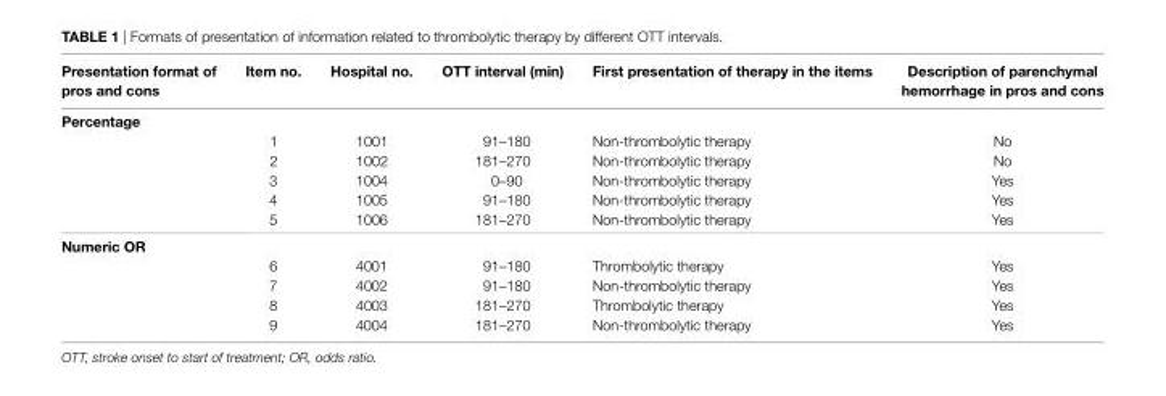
<table><thead><tr><td>Presentation format of pros and cons</td><td>item no.</td><td>hospital no.</td><td>OTT interval (min)</td><td>First presentation of therapy in the items</td><td>Description of parenchymal hemorrhage in pros and cons</td></tr></thead><tbody><tr><td colspan="6">Percentage</td></tr><tr><td></td><td>1</td><td>1001</td><td>91–180</td><td>Non-thrombolytic therapy</td><td>No</td></tr><tr><td></td><td>2</td><td>1002</td><td>181–270</td><td>Non-thrombolytic therapy</td><td>No</td></tr><tr><td></td><td>3</td><td>1004</td><td>0–90</td><td>Non-thrombolytic therapy</td><td>Yes</td></tr><tr><td></td><td>4</td><td>1005</td><td>91–180</td><td>Non-thrombolytic therapy</td><td>Yes</td></tr><tr><td></td><td>5</td><td>1006</td><td>181–270</td><td>Non-thrombolytic therapy</td><td>Yes</td></tr><tr><td colspan="6">numeric Or</td></tr><tr><td></td><td>6</td><td>4001</td><td>91–180</td><td>Thrombolytic therapy</td><td>Yes</td></tr><tr><td></td><td>7</td><td>4002</td><td>91–180</td><td>Non-thrombolytic therapy</td><td>Yes</td></tr><tr><td></td><td>8</td><td>4003</td><td>181–270</td><td>Thrombolytic therapy</td><td>Yes</td></tr><tr><td></td><td>9</td><td>4004</td><td>181–270</td><td>Non-thrombolytic therapy</td><td>Yes</td></tr></tbody></table>